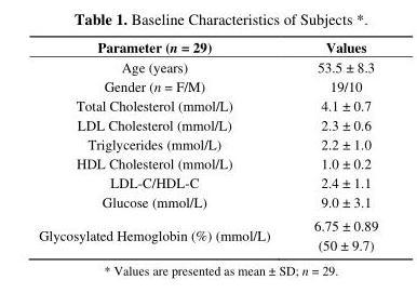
<table><thead><tr><td>Parameter (n = 29)</td><td>Values</td></tr></thead><tbody><tr><td>Age (years)</td><td>53.5 ± 8.3</td></tr><tr><td>Gender (n = F/M)</td><td>19/10</td></tr><tr><td>Total Cholesterol (mmol/L)</td><td>4.1 ± 0.7</td></tr><tr><td>LDL Cholesterol (mmol/L)</td><td>2.3 ± 0.6</td></tr><tr><td>Triglycerides (mmol/L)</td><td>2.2 ± 1.0</td></tr><tr><td>HDL Cholesterol (mmol/L)</td><td>1.0 ± 0.2</td></tr><tr><td>LDL-C/HDL-C</td><td>2.4 ± 1.1</td></tr><tr><td>Glucose (mmol/L)</td><td>9.0 ± 3.1</td></tr><tr><td rowspan="2">Glycosylated Hemoglobin (%) (mmol/L)</td><td>6.75 ± 0.89</td></tr><tr><td>(50 ± 9.7)</td></tr></tbody></table>